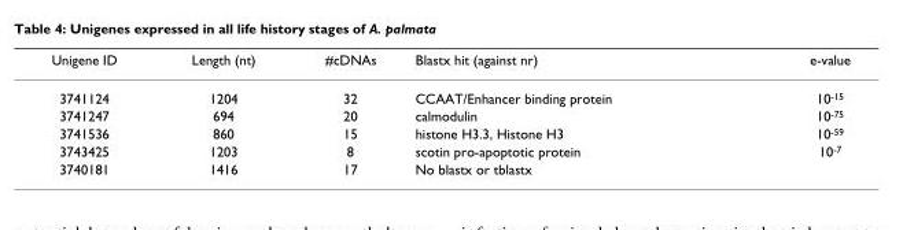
<table><thead><tr><td>Unigene ID</td><td>Length (nt)</td><td>#cDNAs</td><td>Blastx hit (against nr)</td><td>e-value</td></tr></thead><tbody><tr><td>3741124</td><td>1204</td><td>32</td><td>CCAAT/Enhancer binding protein</td><td>10<sup>-15</sup></td></tr><tr><td>3741247</td><td>694</td><td>20</td><td>calmodulin</td><td>10<sup>-75</sup></td></tr><tr><td>3741536</td><td>860</td><td>15</td><td>histone H3.3, Histone H3</td><td>10<sup>-59</sup></td></tr><tr><td>3743425</td><td>1203</td><td>8</td><td>scotin pro-apoptotic protein</td><td>10<sup>-7</sup></td></tr><tr><td>3740181</td><td>1416</td><td>17</td><td>No blastx or tblastx</td><td></td></tr></tbody></table>